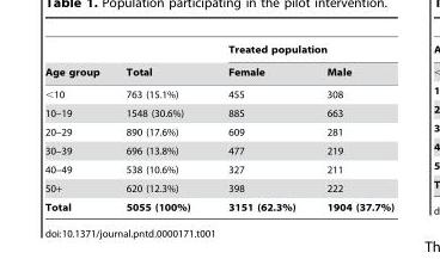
<table><thead><tr><td rowspan="2">Age group</td><td rowspan="2">Total</td><td colspan="2">Treated population</td></tr><tr><td>Female</td><td>Male</td></tr></thead><tbody><tr><td>&lt;10</td><td>763 (15.1%)</td><td>455</td><td>308</td></tr><tr><td>10–19</td><td>1548 (30.6%)</td><td>885</td><td>663</td></tr><tr><td>20–29</td><td>890 (17.6%)</td><td>609</td><td>281</td></tr><tr><td>30–39</td><td>696 (13.8%)</td><td>477</td><td>219</td></tr><tr><td>40–49</td><td>538 (10.6%)</td><td>327</td><td>211</td></tr><tr><td>50+</td><td>620 (12.3%)</td><td>398</td><td>222</td></tr><tr><td>Total</td><td>5055 (100%)</td><td>3151 (62.3%)</td><td>1904 (37.7%)</td></tr></tbody></table>